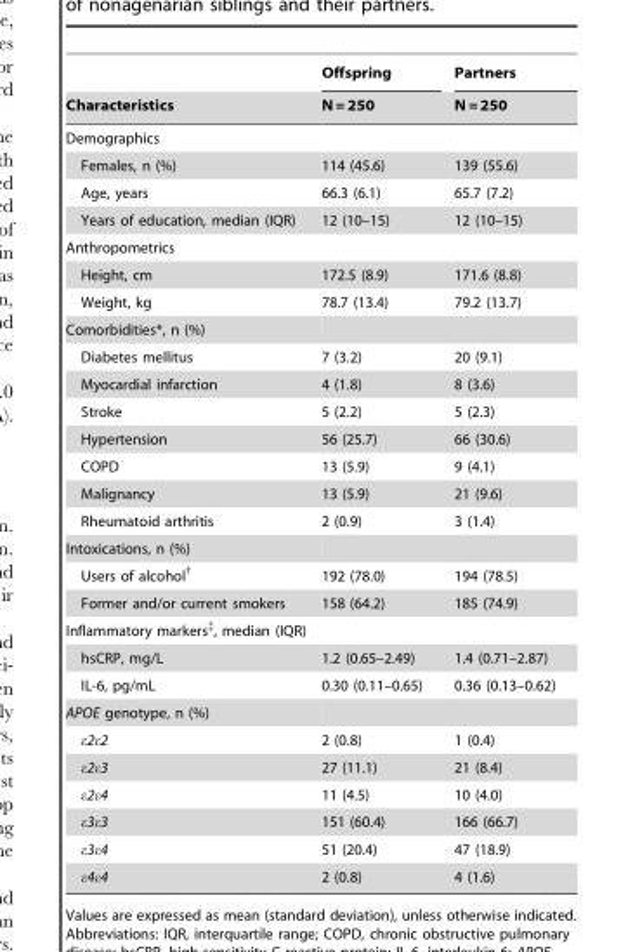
<table><thead><tr><td rowspan="2">Characteristics</td><td rowspan="2">Offspring N = 250</td><td rowspan="2">Partners N = 250</td></tr><tr></tr></thead><tbody><tr><td colspan="3">Demographics</td></tr><tr><td>Females, n (%)</td><td>114 (45.6)</td><td>139 (55.6)</td></tr><tr><td>Age, years</td><td>66.3 (6.1)</td><td>65.7 (7.2)</td></tr><tr><td>Years of education, median (IQR)</td><td>12 (10–15)</td><td>12 (10–15)</td></tr><tr><td colspan="3">Anthropometrics</td></tr><tr><td>Height, cm</td><td>172.5 (8.9)</td><td>171.6 (8.8)</td></tr><tr><td>Weight, kg</td><td>78.7 (13.4)</td><td>79.2 (13.7)</td></tr><tr><td colspan="3">Comorbidities*, n (%)</td></tr><tr><td>Diabetes mellitus</td><td>7 (3.2)</td><td>20 (9.1)</td></tr><tr><td>Myocardial infarction</td><td>4 (1.8)</td><td>8 (3.6)</td></tr><tr><td>Stroke</td><td>5 (2.2)</td><td>5 (2.3)</td></tr><tr><td>Hypertension</td><td>56 (25.7)</td><td>66 (30.6)</td></tr><tr><td>COPD</td><td>13 (5.9)</td><td>9 (4.1)</td></tr><tr><td>Malignancy</td><td>13 (5.9)</td><td>21 (9.6)</td></tr><tr><td>Rheumatoid arthritis</td><td>2 (0.9)</td><td>3 (1.4)</td></tr><tr><td colspan="3">Intoxications, n (%)</td></tr><tr><td>Users of alcohol†</td><td>192 (78.0)</td><td>194 (78.5)</td></tr><tr><td>Former and/or current smokers</td><td>158 (64.2)</td><td>185 (74.9)</td></tr><tr><td colspan="3">Inflammatory markers‡, median (IQR)</td></tr><tr><td>hsCRP, mg/L</td><td>1.2 (0.65–2.49)</td><td>1.4 (0.71–2.87)</td></tr><tr><td>IL-6, pg/mL</td><td>0.30 (0.11–0.65)</td><td>0.36 (0.13–0.62)</td></tr><tr><td colspan="3">APOE genotype, n (%)</td></tr><tr><td>ε2ε2</td><td>2 (0.8)</td><td>1 (0.4)</td></tr><tr><td>ε2ε3</td><td>27 (11.1)</td><td>21 (8.4)</td></tr><tr><td>ε2ε4</td><td>11 (4.5)</td><td>10 (4.0)</td></tr><tr><td>ε3ε3</td><td>151 (60.4)</td><td>166 (66.7)</td></tr><tr><td>ε3ε4</td><td>51 (20.4)</td><td>47 (18.9)</td></tr><tr><td>ε4ε4</td><td>2 (0.8)</td><td>4 (1.6)</td></tr></tbody></table>